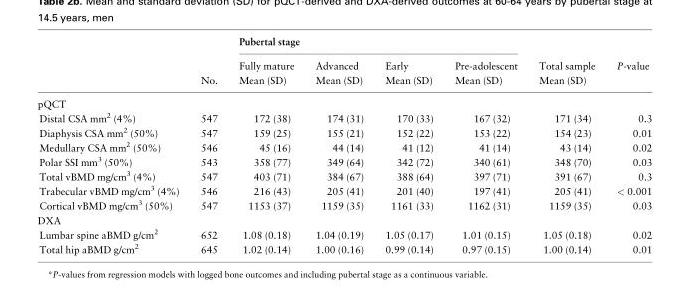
<table><thead><tr><td rowspan="3"></td><td rowspan="3">No.</td><td colspan="4">Pubertal stage</td><td rowspan="3">Total sample Mean (SD)</td><td rowspan="3">P-value</td></tr><tr><td rowspan="2">Fully mature Mean (SD)</td><td rowspan="2">Advanced Mean (SD)</td><td rowspan="2">Early Mean (SD)</td><td rowspan="2">Pre-adolescent Mean (SD)</td></tr><tr></tr></thead><tbody><tr><td colspan="8">pQCT</td></tr><tr><td>Distal CSA mm<sup>2</sup> (4%)</td><td>547</td><td>172 (38)</td><td>174 (31)</td><td>170 (33)</td><td>167 (32)</td><td>171 (34)</td><td>0.3</td></tr><tr><td>Diaphysis CSA mm<sup>2</sup> (50%)</td><td>547</td><td>159 (25)</td><td>155 (21)</td><td>152 (22)</td><td>153 (22)</td><td>154 (23)</td><td>0.01</td></tr><tr><td>Medullary CSA mm<sup>2</sup> (50%)</td><td>546</td><td>45 (16)</td><td>44 (14)</td><td>41 (12)</td><td>41 (14)</td><td>43 (14)</td><td>0.02</td></tr><tr><td>Polar SSI mm<sup>3</sup> (50%)</td><td>543</td><td>358 (77)</td><td>349 (64)</td><td>342 (72)</td><td>340 (61)</td><td>348 (70)</td><td>0.03</td></tr><tr><td>Total vBMD mg/cm<sup>3</sup> (4%)</td><td>547</td><td>403 (71)</td><td>384 (67)</td><td>388 (64)</td><td>397 (71)</td><td>391 (67)</td><td>0.3</td></tr><tr><td>Trabecular vBMD mg/cm<sup>3</sup> (4%)</td><td>546</td><td>216 (43)</td><td>205 (41)</td><td>201 (40)</td><td>197 (41)</td><td>205 (41)</td><td>&lt; 0.001</td></tr><tr><td>Cortical vBMD mg/cm<sup>3</sup> (50%)</td><td>547</td><td>1153 (37)</td><td>1159 (35)</td><td>1161 (33)</td><td>1162 (31)</td><td>1159 (35)</td><td>0.03</td></tr><tr><td colspan="8">DXA</td></tr><tr><td>Lumbar spine aBMD g/cm<sup>2</sup></td><td>652</td><td>1.08 (0.18)</td><td>1.04 (0.19)</td><td>1.05 (0.17)</td><td>1.01 (0.15)</td><td>1.05 (0.18)</td><td>0.02</td></tr><tr><td>Total hip aBMD g/cm<sup>2</sup></td><td>645</td><td>1.02 (0.14)</td><td>1.00 (0.16)</td><td>0.99 (0.14)</td><td>0.97 (0.15)</td><td>1.00 (0.14)</td><td>0.01</td></tr></tbody></table>